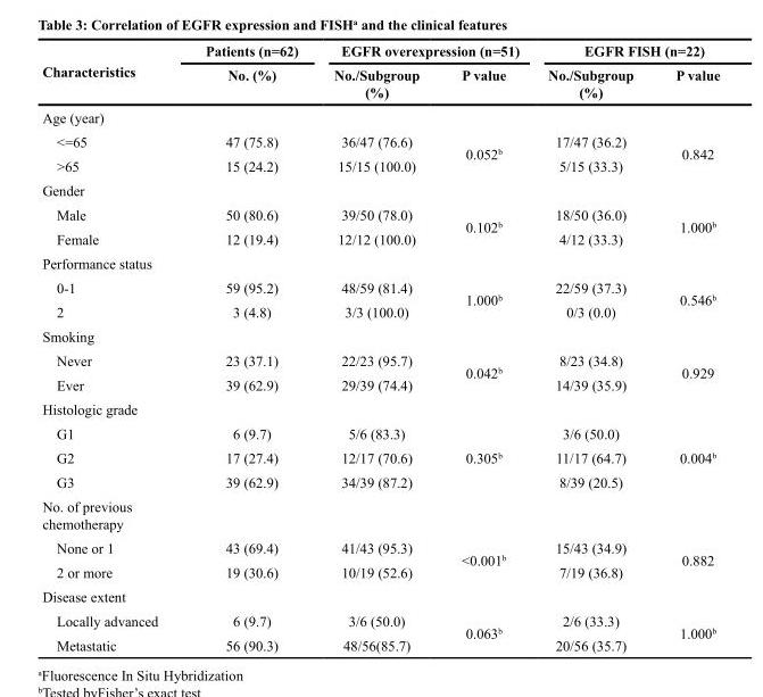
<table><thead><tr><td rowspan="2">Characteristics</td><td rowspan="2">Patients (n=62) No. (%)</td><td colspan="2">EGFR overexpression (n=51)</td><td colspan="2">EGFR FISH (n=22)</td></tr><tr><td>No./Subgroup (%)</td><td>P value</td><td>No./Subgroup (%)</td><td>P value</td></tr></thead><tbody><tr><td colspan="6">Age (year)</td></tr><tr><td>&lt;=65</td><td>47 (75.8)</td><td>36/47 (76.6)</td><td rowspan="2">0.052<sup>b</sup></td><td>17/47 (36.2)</td><td rowspan="2">0.842</td></tr><tr><td>&gt;65</td><td>15 (24.2)</td><td>15/15 (100.0)</td><td>5/15 (33.3)</td></tr><tr><td colspan="6">Gender</td></tr><tr><td>Male</td><td>50 (80.6)</td><td>39/50 (78.0)</td><td rowspan="2">0.102<sup>b</sup></td><td>18/50 (36.0)</td><td rowspan="2">1.000<sup>b</sup></td></tr><tr><td>Female</td><td>12 (19.4)</td><td>12/12 (100.0)</td><td>4/12 (33.3)</td></tr><tr><td colspan="6">Performance status</td></tr><tr><td>0-1</td><td>59 (95.2)</td><td>48/59 (81.4)</td><td rowspan="2">1.000<sup>b</sup></td><td>22/59 (37.3)</td><td rowspan="2">0.546<sup>b</sup></td></tr><tr><td>2</td><td>3 (4.8)</td><td>3/3 (100.0)</td><td>0/3 (0.0)</td></tr><tr><td colspan="6">Smoking</td></tr><tr><td>Never</td><td>23 (37.1)</td><td>22/23 (95.7)</td><td rowspan="2">0.042<sup>b</sup></td><td>8/23 (34.8)</td><td rowspan="2">0.929</td></tr><tr><td>Ever</td><td>39 (62.9)</td><td>29/39 (74.4)</td><td>14/39 (35.9)</td></tr><tr><td colspan="6">Histologic grade</td></tr><tr><td>G1</td><td>6 (9.7)</td><td>5/6 (83.3)</td><td rowspan="3">0.305<sup>b</sup></td><td>3/6 (50.0)</td><td rowspan="3">0.004<sup>b</sup></td></tr><tr><td>G2</td><td>17 (27.4)</td><td>12/17 (70.6)</td><td>11/17 (64.7)</td></tr><tr><td>G3</td><td>39 (62.9)</td><td>34/39 (87.2)</td><td>8/39 (20.5)</td></tr><tr><td colspan="6">No. of previous chemotherapy</td></tr><tr><td>None or 1</td><td>43 (69.4)</td><td>41/43 (95.3)</td><td rowspan="2">&lt;0.001<sup>b</sup></td><td>15/43 (34.9)</td><td rowspan="2">0.882</td></tr><tr><td>2 or more</td><td>19 (30.6)</td><td>10/19 (52.6)</td><td>7/19 (36.8)</td></tr><tr><td colspan="6">Disease extent</td></tr><tr><td>Locally advanced</td><td>6 (9.7)</td><td>3/6 (50.0)</td><td rowspan="2">0.063<sup>b</sup></td><td>2/6 (33.3)</td><td rowspan="2">1.000<sup>b</sup></td></tr><tr><td>Metastatic</td><td>56 (90.3)</td><td>48/56(85.7)</td><td>20/56 (35.7)</td></tr></tbody></table>